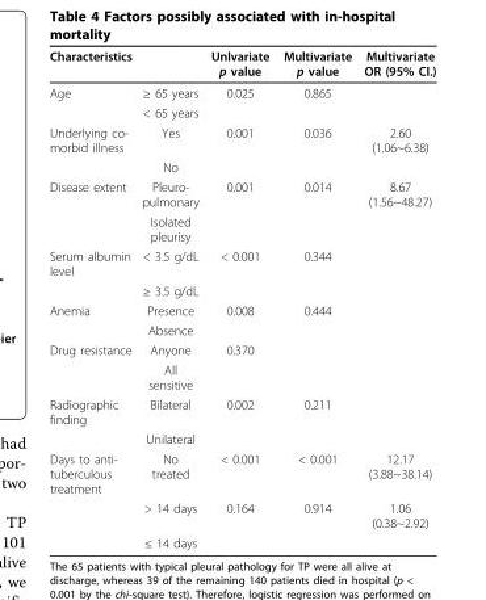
<table><thead><tr><td>Characteristics</td><td></td><td>Unlvariate p value</td><td>Multivariate p value</td><td>Multivariate OR (95% CI.)</td></tr></thead><tbody><tr><td rowspan="2">Age</td><td>≥ 65 years</td><td>0.025</td><td>0.865</td><td></td></tr><tr><td>&lt; 65 years</td><td></td><td></td><td></td></tr><tr><td rowspan="2">Underlying co- morbid illness</td><td>Yes</td><td>0.001</td><td>0.036</td><td>2.60 (1.06~6.38)</td></tr><tr><td>No</td><td></td><td></td><td></td></tr><tr><td rowspan="2">Disease extent</td><td>Pleuro- pulmonary</td><td>0.001</td><td>0.014</td><td>8.67 (1.56~48.27)</td></tr><tr><td>Isolated pleurisy</td><td></td><td></td><td></td></tr><tr><td rowspan="2">Serum albumin level</td><td>&lt; 3.5 g/dL</td><td>&lt; 0.001</td><td>0.344</td><td></td></tr><tr><td>≥ 3.5 g/dL</td><td></td><td></td><td></td></tr><tr><td rowspan="2">Anemia</td><td>Presence</td><td>0.008</td><td>0.444</td><td></td></tr><tr><td>Absence</td><td></td><td></td><td></td></tr><tr><td rowspan="2">Drug resistance</td><td>Anyone</td><td>0.370</td><td></td><td></td></tr><tr><td>All sensitive</td><td></td><td></td><td></td></tr><tr><td rowspan="2">Radiographic finding</td><td>Bilateral</td><td>0.002</td><td>0.211</td><td></td></tr><tr><td>Unilateral</td><td></td><td></td><td></td></tr><tr><td rowspan="3">Days to anti- tuberculous treatment</td><td>No treated</td><td>&lt; 0.001</td><td>&lt; 0.001</td><td>12.17 (3.88~38.14)</td></tr><tr><td>&gt; 14 days</td><td>0.164</td><td>0.914</td><td>1.06 (0.38~2.92)</td></tr><tr><td>≤ 14 days</td><td></td><td></td><td></td></tr></tbody></table>